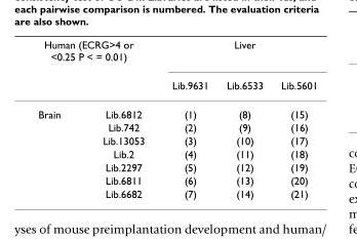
<table><thead><tr><td colspan="2">Human (ECRG&gt;4 or &lt;0.25 P &lt; = 0.01)</td><td colspan="3">Liver</td></tr><tr><td></td><td></td><td>Lib.9631</td><td>Lib.6533</td><td>Lib.5601</td></tr></thead><tbody><tr><td rowspan="7">Brain</td><td>Lib.6812</td><td>(1)</td><td>(8)</td><td>(15)</td></tr><tr><td>Lib.742</td><td>(2)</td><td>(9)</td><td>(16)</td></tr><tr><td>Lib.13053</td><td>(3)</td><td>(10)</td><td>(17)</td></tr><tr><td>Lib.2</td><td>(4)</td><td>(11)</td><td>(18)</td></tr><tr><td>Lib.2297</td><td>(5)</td><td>(12)</td><td>(19)</td></tr><tr><td>Lib.6811</td><td>(6)</td><td>(13)</td><td>(20)</td></tr><tr><td>Lib.6682</td><td>(7)</td><td>(14)</td><td>(21)</td></tr></tbody></table>